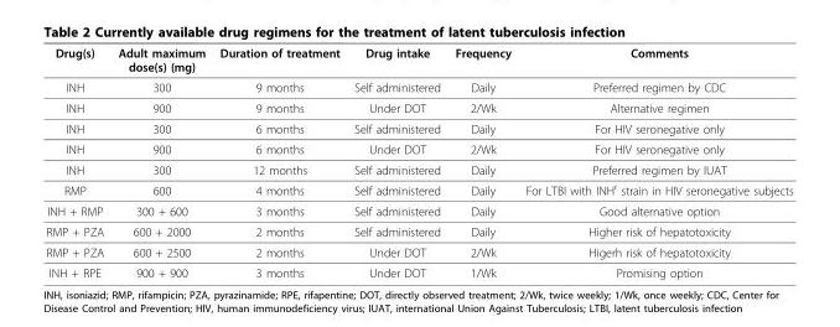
<table><thead><tr><td>Drug(s)</td><td>Adult maximum dose(s) (mg)</td><td>Duration of treatment</td><td>Drug intake</td><td>Frequency</td><td>Comments</td></tr></thead><tbody><tr><td>INH</td><td>300</td><td>9 months</td><td>Self administered</td><td>Daily</td><td>Preferred regimen by CDC</td></tr><tr><td>INH</td><td>900</td><td>9 months</td><td>Under DOT</td><td>2/Wk</td><td>Alternative regimen</td></tr><tr><td>INH</td><td>300</td><td>6 months</td><td>Self administered</td><td>Daily</td><td>For HIV seronegative only</td></tr><tr><td>INH</td><td>900</td><td>6 months</td><td>Under DOT</td><td>2/Wk</td><td>For HIV seronegative only</td></tr><tr><td>INH</td><td>300</td><td>12 months</td><td>Self administered</td><td>Daily</td><td>Preferred regimen by IUAT</td></tr><tr><td>RMP</td><td>600</td><td>4 months</td><td>Self administered</td><td>Daily</td><td>For LTBI with INH<sup>r</sup> strain in HIV seronegative subjects</td></tr><tr><td>INH + RMP</td><td>300 + 600</td><td>3 months</td><td>Self administered</td><td>Daily</td><td>Good alternative option</td></tr><tr><td>RMP + PZA</td><td>600 + 2000</td><td>2 months</td><td>Self administered</td><td>Daily</td><td>Higher risk of hepatotoxicity</td></tr><tr><td>RMP + PZA</td><td>600 + 2500</td><td>2 months</td><td>Under DOT</td><td>2/Wk</td><td>Higerh risk of hepatotoxicity</td></tr><tr><td>INH + RPE</td><td>900 + 900</td><td>3 months</td><td>Under DOT</td><td>1/Wk</td><td>Promising option</td></tr></tbody></table>